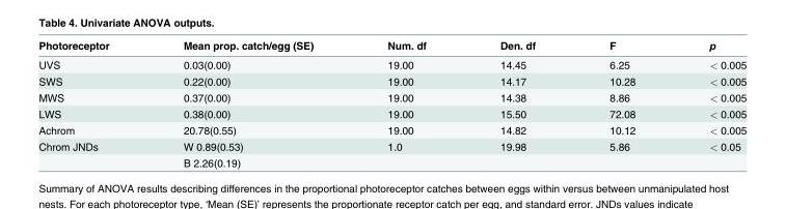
<table><thead><tr><td>Photoreceptor</td><td>Mean prop. catch/egg (SE)</td><td>Num. df</td><td>Den. df</td><td>F</td><td>p</td></tr></thead><tbody><tr><td>UVS</td><td>0.03(0.00)</td><td>19.00</td><td>14.45</td><td>6.25</td><td>&lt; 0.005</td></tr><tr><td>SWS</td><td>0.22(0.00)</td><td>19.00</td><td>14.17</td><td>10.28</td><td>&lt; 0.005</td></tr><tr><td>MWS</td><td>0.37(0.00)</td><td>19.00</td><td>14.38</td><td>8.86</td><td>&lt; 0.005</td></tr><tr><td>LWS</td><td>0.38(0.00)</td><td>19.00</td><td>15.50</td><td>72.08</td><td>&lt; 0.005</td></tr><tr><td>Achrom</td><td>20.78(0.55)</td><td>19.00</td><td>14.82</td><td>10.12</td><td>&lt; 0.005</td></tr><tr><td rowspan="2">Chrom JNDs</td><td>W 0.89(0.53)</td><td>1.0</td><td>19.98</td><td>5.86</td><td>&lt; 0.05</td></tr><tr><td>B 2.26(0.19)</td><td></td><td></td><td></td><td></td></tr></tbody></table>